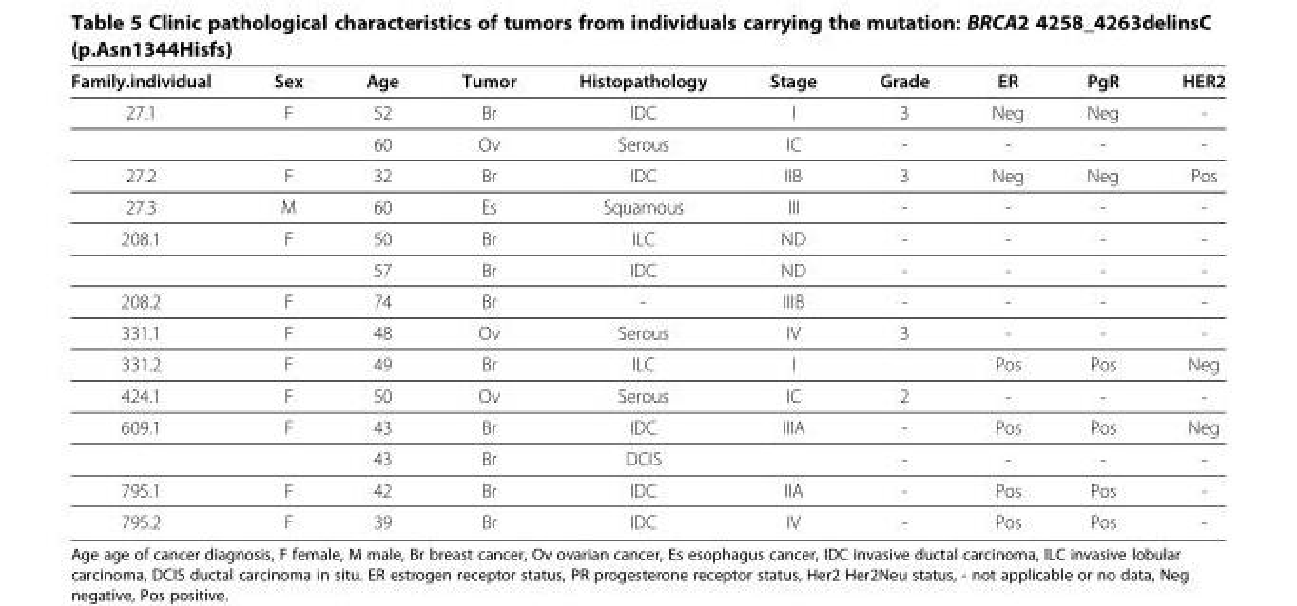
<table><thead><tr><td>Family.individual</td><td>Sex</td><td>Age</td><td>Tumor</td><td>Histopathology</td><td>Stage</td><td>Grade</td><td>ER</td><td>PgR</td><td>HER2</td></tr></thead><tbody><tr><td rowspan="2">27.1</td><td>F</td><td>52</td><td>Br</td><td>IDC</td><td>I</td><td>3</td><td>Neg</td><td>Neg</td><td>-</td></tr><tr><td></td><td>60</td><td>Ov</td><td>Serous</td><td>IC</td><td>-</td><td>-</td><td>-</td><td>-</td></tr><tr><td>27.2</td><td>F</td><td>32</td><td>Br</td><td>IDC</td><td>IIB</td><td>3</td><td>Neg</td><td>Neg</td><td>Pos</td></tr><tr><td>27.3</td><td>M</td><td>60</td><td>Es</td><td>Squamous</td><td>III</td><td>-</td><td>-</td><td>-</td><td>-</td></tr><tr><td rowspan="2">208.1</td><td>F</td><td>50</td><td>Br</td><td>ILC</td><td>ND</td><td>-</td><td>-</td><td>-</td><td>-</td></tr><tr><td></td><td>57</td><td>Br</td><td>IDC</td><td>ND</td><td>-</td><td>-</td><td>-</td><td>-</td></tr><tr><td>208.2</td><td>F</td><td>74</td><td>Br</td><td>-</td><td>IIIB</td><td>-</td><td>-</td><td>-</td><td>-</td></tr><tr><td>331.1</td><td>F</td><td>48</td><td>Ov</td><td>Serous</td><td>IV</td><td>3</td><td>-</td><td>-</td><td>-</td></tr><tr><td>331.2</td><td>F</td><td>49</td><td>Br</td><td>ILC</td><td>I</td><td></td><td>Pos</td><td>Pos</td><td>Neg</td></tr><tr><td>424.1</td><td>F</td><td>50</td><td>Ov</td><td>Serous</td><td>IC</td><td>2</td><td>-</td><td>-</td><td>-</td></tr><tr><td rowspan="2">609.1</td><td>F</td><td>43</td><td>Br</td><td>IDC</td><td>IIIA</td><td>-</td><td>Pos</td><td>Pos</td><td>Neg</td></tr><tr><td></td><td>43</td><td>Br</td><td>DCIS</td><td></td><td>-</td><td>-</td><td>-</td><td>-</td></tr><tr><td>795.1</td><td>F</td><td>42</td><td>Br</td><td>IDC</td><td>IIA</td><td>-</td><td>Pos</td><td>Pos</td><td>-</td></tr><tr><td>795.2</td><td>F</td><td>39</td><td>Br</td><td>IDC</td><td>IV</td><td>-</td><td>Pos</td><td>Pos</td><td>-</td></tr></tbody></table>